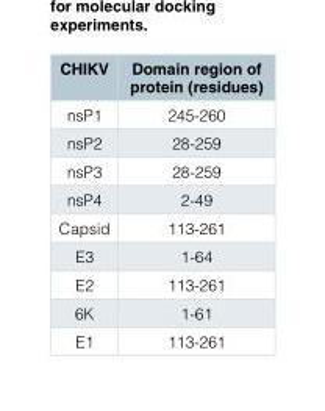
<table><thead><tr><td>CHIKV</td><td>Domain region of protein (residues)</td></tr></thead><tbody><tr><td>nsP1</td><td>245-260</td></tr><tr><td>nsP2</td><td>28-259</td></tr><tr><td>nsP3</td><td>28-259</td></tr><tr><td>nsP4</td><td>2-49</td></tr><tr><td>Capsid</td><td>113-261</td></tr><tr><td>E3</td><td>1-64</td></tr><tr><td>E2</td><td>113-261</td></tr><tr><td>6K</td><td>1-61</td></tr><tr><td>E1</td><td>113-261</td></tr></tbody></table>